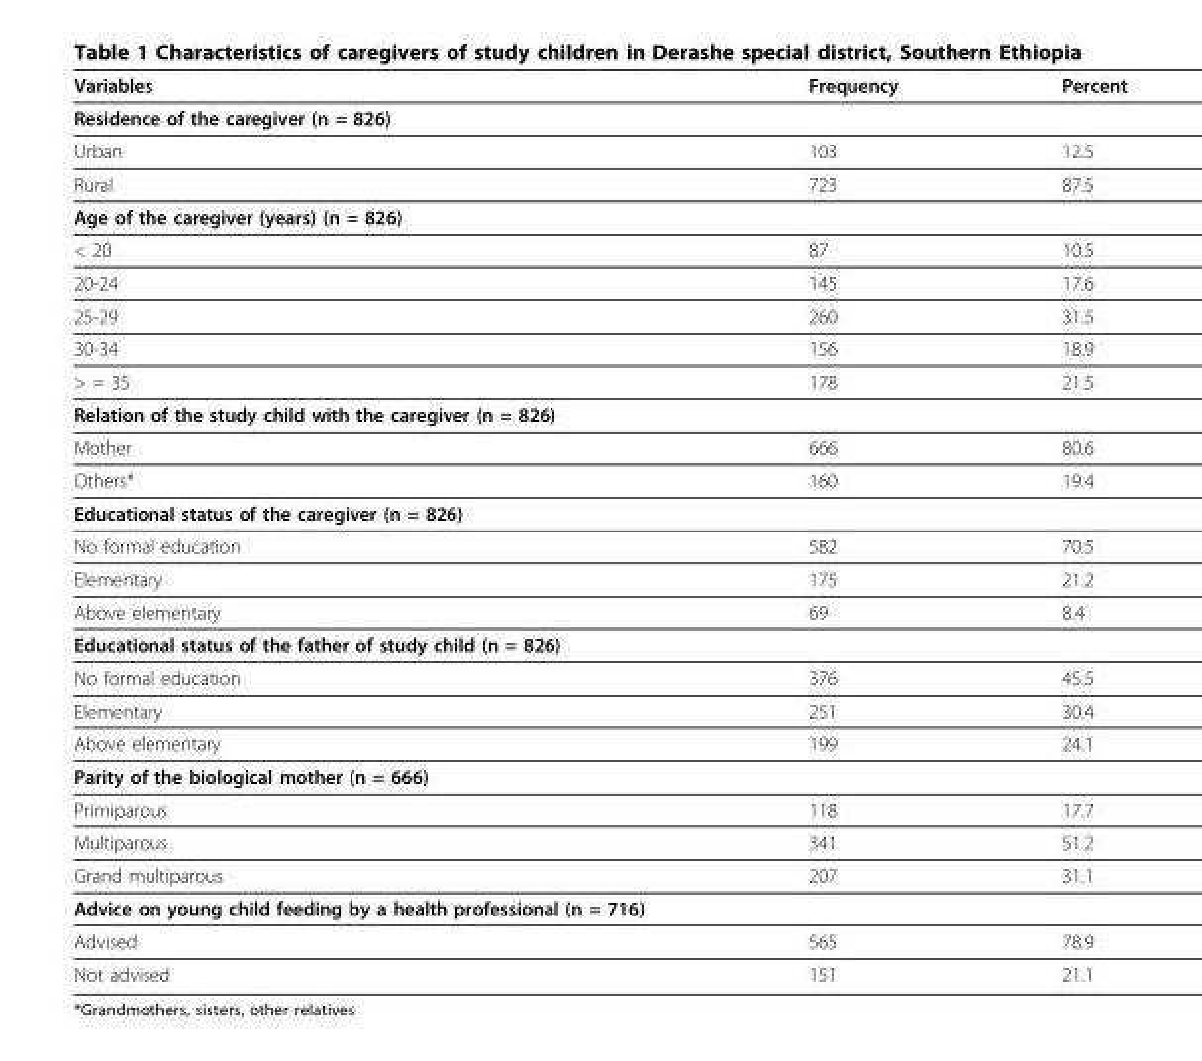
<table><thead><tr><td>Variables</td><td>Frequency</td><td>Percent</td></tr></thead><tbody><tr><td colspan="3">Residence of the caregiver (n = 826)</td></tr><tr><td>Urban</td><td>103</td><td>12.5</td></tr><tr><td>Rural</td><td>723</td><td>87.5</td></tr><tr><td colspan="3">Age of the caregiver (years) (n = 826)</td></tr><tr><td>&lt; 20</td><td>87</td><td>10.5</td></tr><tr><td>20-24</td><td>145</td><td>17.6</td></tr><tr><td>25-29</td><td>260</td><td>31.5</td></tr><tr><td>30-34</td><td>156</td><td>18.9</td></tr><tr><td>&gt; = 35</td><td>178</td><td>21.5</td></tr><tr><td colspan="3">Relation of the study child with the caregiver (n = 826)</td></tr><tr><td>Mother</td><td>666</td><td>80.6</td></tr><tr><td>Others*</td><td>160</td><td>19.4</td></tr><tr><td colspan="3">Educational status of the caregiver (n = 826)</td></tr><tr><td>No formal education</td><td>582</td><td>70.5</td></tr><tr><td>Elementary</td><td>175</td><td>21.2</td></tr><tr><td>Above elementary</td><td>69</td><td>8.4</td></tr><tr><td colspan="3">Educational status of the father of study child (n = 826)</td></tr><tr><td>No formal education</td><td>376</td><td>45.5</td></tr><tr><td>Elementary</td><td>251</td><td>30.4</td></tr><tr><td>Above elementary</td><td>199</td><td>24.1</td></tr><tr><td colspan="3">Parity of the biological mother (n = 666)</td></tr><tr><td>Primiparous</td><td>118</td><td>17.7</td></tr><tr><td>Multiparous</td><td>341</td><td>51.2</td></tr><tr><td>Grand multiparous</td><td>207</td><td>31.1</td></tr><tr><td colspan="3">Advice on young child feeding by a health professional (n = 716)</td></tr><tr><td>Advised</td><td>565</td><td>78.9</td></tr><tr><td>Not advised</td><td>151</td><td>21.1</td></tr></tbody></table>